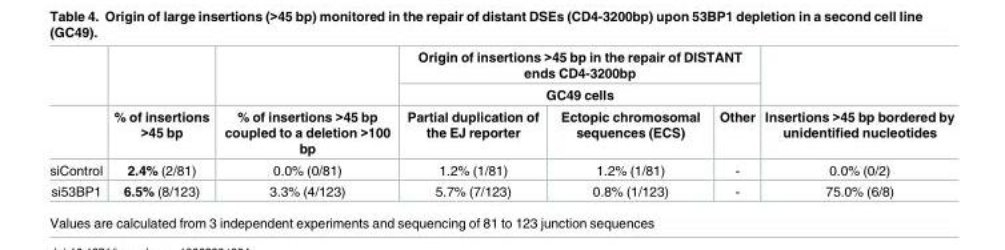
<table><thead><tr><td rowspan="3"></td><td rowspan="3">% of insertions &gt;45 bp</td><td rowspan="3">% of insertions &gt;45 bp coupled to a deletion &gt;100 bp</td><td rowspan="2" colspan="3">Origin of insertions &gt;45 bp in the repair of DISTANT ends CD4-3200bp GC49 cells</td><td rowspan="3">Insertions &gt;45 bp bordered by unidentified nucleotides</td></tr><tr></tr><tr><td>Partial duplication of the EJ reporter</td><td>Ectopic chromosomal sequences (ECS)</td><td>Other</td></tr></thead><tbody><tr><td>siControl</td><td>2.4% (2/81)</td><td>0.0% (0/81)</td><td>1.2% (1/81)</td><td>1.2% (1/81)</td><td>-</td><td>0.0% (0/2)</td></tr><tr><td>si53BP1</td><td>6.5% (8/123)</td><td>3.3% (4/123)</td><td>5.7% (7/123)</td><td>0.8% (1/123)</td><td>-</td><td>75.0% (6/8)</td></tr></tbody></table>